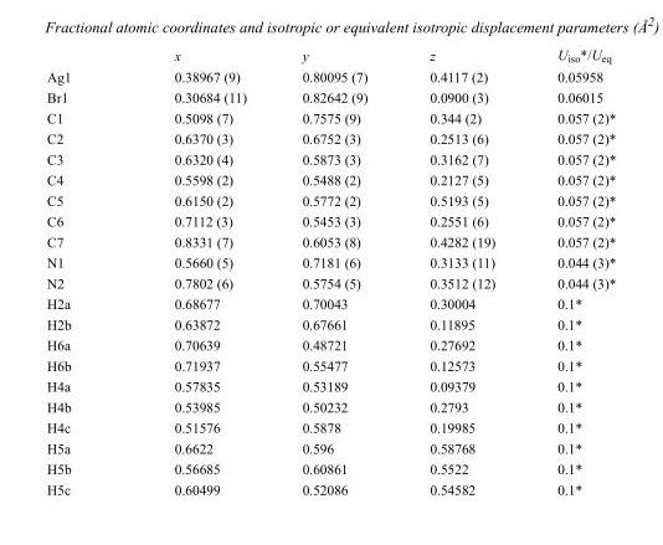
<table><thead><tr><td></td><td>x</td><td>y</td><td>z</td><td>U<sub>iso</sub>*/U<sub>eq</sub></td></tr></thead><tbody><tr><td>Ag1</td><td>0.38967 (9)</td><td>0.80095 (7)</td><td>0.4117 (2)</td><td>0.05958</td></tr><tr><td>Br1</td><td>0.30684 (11)</td><td>0.82642 (9)</td><td>0.0900 (3)</td><td>0.06015</td></tr><tr><td>C1</td><td>0.5098 (7)</td><td>0.7575 (9)</td><td>0.344 (2)</td><td>0.057 (2)*</td></tr><tr><td>C2</td><td>0.6370 (3)</td><td>0.6752 (3)</td><td>0.2513 (6)</td><td>0.057 (2)*</td></tr><tr><td>C3</td><td>0.6320 (4)</td><td>0.5873 (3)</td><td>0.3162 (7)</td><td>0.057 (2)*</td></tr><tr><td>C4</td><td>0.5598 (2)</td><td>0.5488 (2)</td><td>0.2127 (5)</td><td>0.057 (2)*</td></tr><tr><td>C5</td><td>0.6150 (2)</td><td>0.5772 (2)</td><td>0.5193 (5)</td><td>0.057 (2)*</td></tr><tr><td>C6</td><td>0.7112 (3)</td><td>0.5453 (3)</td><td>0.2551 (6)</td><td>0.057 (2)*</td></tr><tr><td>C7</td><td>0.8331 (7)</td><td>0.6053 (8)</td><td>0.4282 (19)</td><td>0.057 (2)*</td></tr><tr><td>N1</td><td>0.5660 (5)</td><td>0.7181 (6)</td><td>0.3133 (11)</td><td>0.044 (3)*</td></tr><tr><td>N2</td><td>0.7802 (6)</td><td>0.5754 (5)</td><td>0.3512 (12)</td><td>0.044 (3)*</td></tr><tr><td>H2a</td><td>0.68677</td><td>0.70043</td><td>0.30004</td><td>0.1*</td></tr><tr><td>H2b</td><td>0.63872</td><td>0.67661</td><td>0.11895</td><td>0.1*</td></tr><tr><td>H6a</td><td>0.70639</td><td>0.48721</td><td>0.27692</td><td>0.1*</td></tr><tr><td>H6b</td><td>0.71937</td><td>0.55477</td><td>0.12573</td><td>0.1*</td></tr><tr><td>H4a</td><td>0.57835</td><td>0.53189</td><td>0.09379</td><td>0.1*</td></tr><tr><td>H4b</td><td>0.53985</td><td>0.50232</td><td>0.2793</td><td>0.1*</td></tr><tr><td>H4c</td><td>0.51576</td><td>0.5878</td><td>0.19985</td><td>0.1*</td></tr><tr><td>H5a</td><td>0.6622</td><td>0.596</td><td>0.58768</td><td>0.1*</td></tr><tr><td>H5b</td><td>0.56685</td><td>0.60861</td><td>0.5522</td><td>0.1*</td></tr><tr><td>H5c</td><td>0.60499</td><td>0.52086</td><td>0.54582</td><td>0.1*</td></tr></tbody></table>